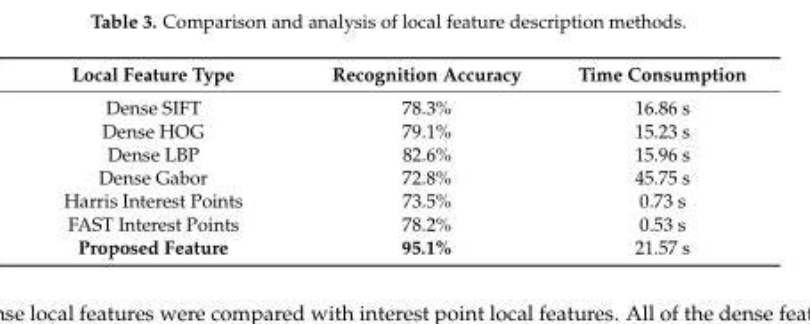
<table><thead><tr><td>Local Feature Type</td><td>Recognition Accuracy</td><td>Time Consumption</td></tr></thead><tbody><tr><td>Dense SIFT</td><td>78.3%</td><td>16.86 s</td></tr><tr><td>Dense HOG</td><td>79.1%</td><td>15.23 s</td></tr><tr><td>Dense LBP</td><td>82.6%</td><td>15.96 s</td></tr><tr><td>Dense Gabor</td><td>72.8%</td><td>45.75 s</td></tr><tr><td>Harris Interest Points</td><td>73.5%</td><td>0.73 s</td></tr><tr><td>FAST Interest Points</td><td>78.2%</td><td>0.53 s</td></tr><tr><td>Proposed Feature</td><td>95.1%</td><td>21.57 s</td></tr></tbody></table>